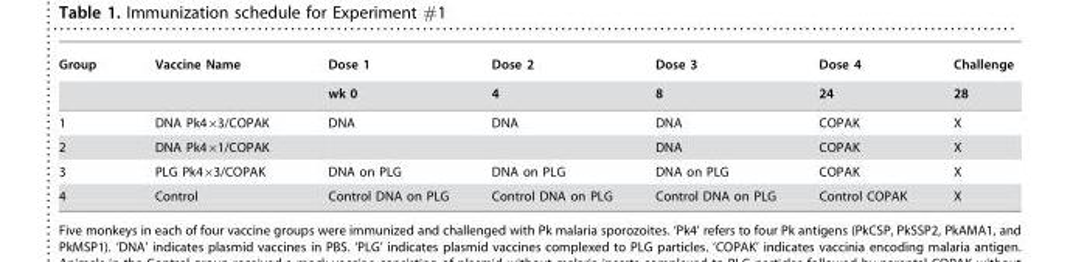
<table><thead><tr><td rowspan="2">Group</td><td rowspan="2">Vaccine Name</td><td rowspan="2">Dose 1 wk 0</td><td rowspan="2">Dose 2 4</td><td rowspan="2">Dose 3 8</td><td rowspan="2">Dose 4 24</td><td rowspan="2">Challenge 28</td></tr><tr></tr></thead><tbody><tr><td>1</td><td>DNA Pk4×3/COPAK</td><td>DNA</td><td>DNA</td><td>DNA</td><td>COPAK</td><td>X</td></tr><tr><td>2</td><td>DNA Pk4×1/COPAK</td><td></td><td></td><td>DNA</td><td>COPAK</td><td>X</td></tr><tr><td>3</td><td>PLG Pk4×3/COPAK</td><td>DNA on PLG</td><td>DNA on PLG</td><td>DNA on PLG</td><td>COPAK</td><td>X</td></tr><tr><td>4</td><td>Control</td><td>Control DNA on PLG</td><td>Control DNA on PLG</td><td>Control DNA on PLG</td><td>Control COPAK</td><td>X</td></tr></tbody></table>